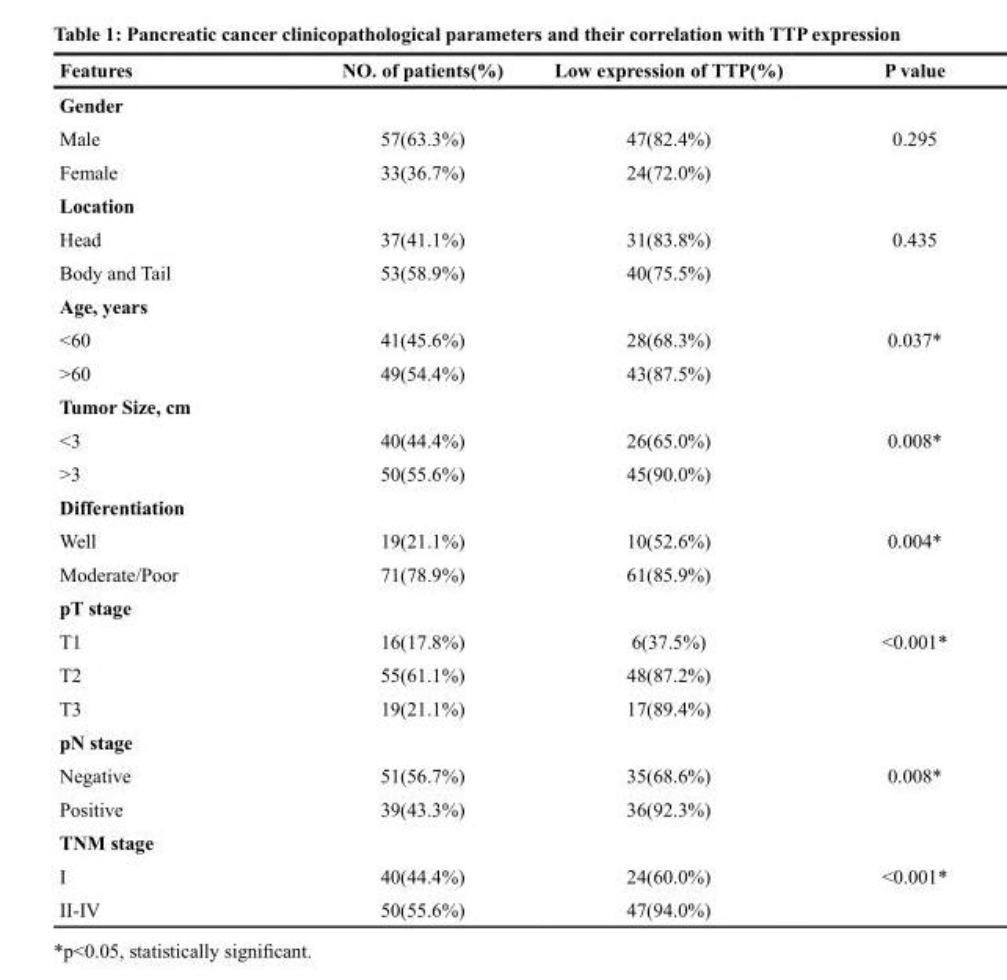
<table><thead><tr><td>Features</td><td>NO. of patients(%)</td><td>Low expression of TTP(%)</td><td>P value</td></tr></thead><tbody><tr><td colspan="4">Gender</td></tr><tr><td>Male</td><td>57(63.3%)</td><td>47(82.4%)</td><td>0.295</td></tr><tr><td>Female</td><td>33(36.7%)</td><td>24(72.0%)</td><td></td></tr><tr><td colspan="4">Location</td></tr><tr><td>Head</td><td>37(41.1%)</td><td>31(83.8%)</td><td>0.435</td></tr><tr><td>Body and Tail</td><td>53(58.9%)</td><td>40(75.5%)</td><td></td></tr><tr><td colspan="4">Age, years</td></tr><tr><td>&lt;60</td><td>41(45.6%)</td><td>28(68.3%)</td><td>0.037*</td></tr><tr><td>&gt;60</td><td>49(54.4%)</td><td>43(87.5%)</td><td></td></tr><tr><td colspan="4">Tumor Size, cm</td></tr><tr><td>&lt;3</td><td>40(44.4%)</td><td>26(65.0%)</td><td>0.008*</td></tr><tr><td>&gt;3</td><td>50(55.6%)</td><td>45(90.0%)</td><td></td></tr><tr><td colspan="4">Differentiation</td></tr><tr><td>Well</td><td>19(21.1%)</td><td>10(52.6%)</td><td>0.004*</td></tr><tr><td>Moderate/Poor</td><td>71(78.9%)</td><td>61(85.9%)</td><td></td></tr><tr><td colspan="4">pT stage</td></tr><tr><td>T1</td><td>16(17.8%)</td><td>6(37.5%)</td><td>&lt;0.001*</td></tr><tr><td>T2</td><td>55(61.1%)</td><td>48(87.2%)</td><td></td></tr><tr><td>T3</td><td>19(21.1%)</td><td>17(89.4%)</td><td></td></tr><tr><td colspan="4">pN stage</td></tr><tr><td>Negative</td><td>51(56.7%)</td><td>35(68.6%)</td><td>0.008*</td></tr><tr><td>Positive</td><td>39(43.3%)</td><td>36(92.3%)</td><td></td></tr><tr><td colspan="4">TNM stage</td></tr><tr><td>I</td><td>40(44.4%)</td><td>24(60.0%)</td><td>&lt;0.001*</td></tr><tr><td>II-IV</td><td>50(55.6%)</td><td>47(94.0%)</td><td></td></tr></tbody></table>